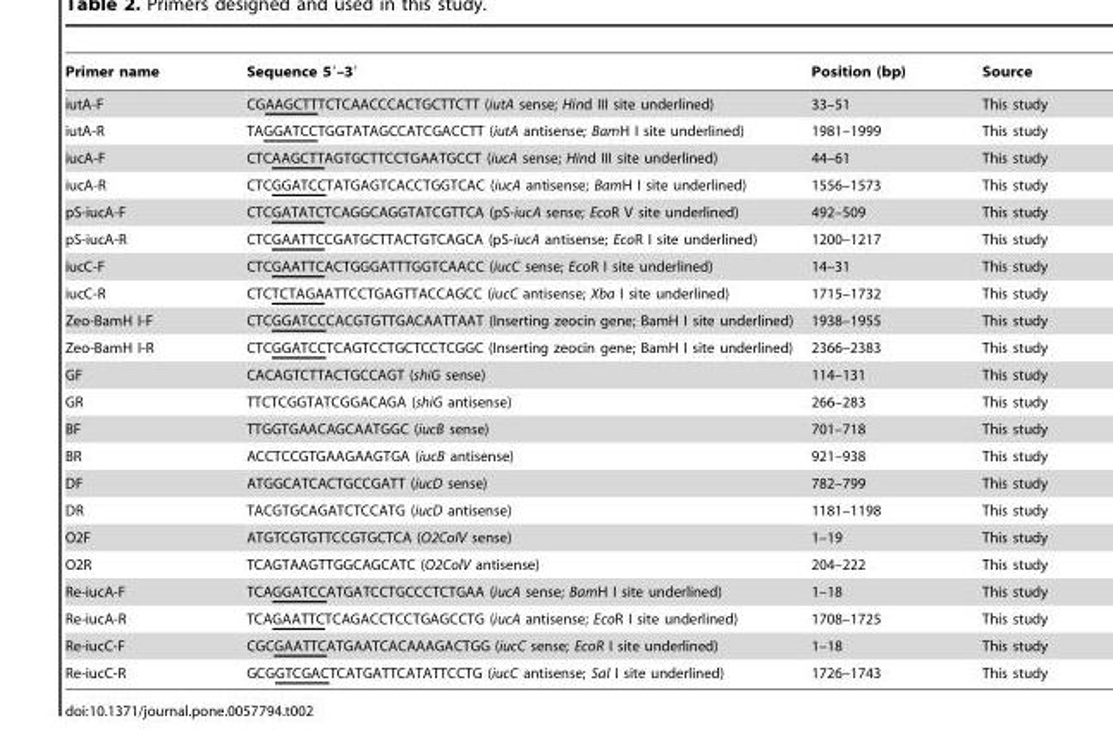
<table><thead><tr><td>Primer name</td><td>Sequence 5′–3′</td><td>Position (bp)</td><td>Source</td></tr></thead><tbody><tr><td>iutA-F</td><td>CGAAGCTTTCTCAACCCACTGCTTCTT (iutA sense; Hind III site underlined)</td><td>33–51</td><td>This study</td></tr><tr><td>iutA-R</td><td>TAGGATCCTGGTATAGCCATCGACCTT (iutA antisense; BamH I site underlined)</td><td>1981–1999</td><td>This study</td></tr><tr><td>iucA-F</td><td>CTCAAGCTTAGTGCTTCCTGAATGCCT (iucA sense; Hind III site underlined)</td><td>44–61</td><td>This study</td></tr><tr><td>iucA-R</td><td>CTCGGATCCTATGAGTCACCTGGTCAC (iucA antisense; BamH I site underlined)</td><td>1556–1573</td><td>This study</td></tr><tr><td>pS-iucA-F</td><td>CTCGATATCTCAGGCAGGTATCGTTCA (pS-iucA sense; EcoR V site underlined)</td><td>492–509</td><td>This study</td></tr><tr><td>pS-iucA-R</td><td>CTCGAATTCCGATGCTTACTGTCAGCA (pS-iucA antisense; EcoR I site underlined)</td><td>1200–1217</td><td>This study</td></tr><tr><td>iucC-F</td><td>CTCGAATTCACTGGGATTTGGTCAACC (iucC sense; EcoR I site underlined)</td><td>14–31</td><td>This study</td></tr><tr><td>iucC-R</td><td>CTCTCTAGAATTCCTGAGTTACCAGCC (iucC antisense; Xba I site underlined)</td><td>1715–1732</td><td>This study</td></tr><tr><td>Zeo-BamH I-F</td><td>CTCGGATCCCACGTGTTGACAATTAAT (Inserting zeocin gene; BamH I site underlined)</td><td>1938–1955</td><td>This study</td></tr><tr><td>Zeo-BamH I-R</td><td>CTCGGATCCTCAGTCCTGCTCCTCGGC (Inserting zeocin gene; BamH I site underlined)</td><td>2366–2383</td><td>This study</td></tr><tr><td>GF</td><td>CACAGTCTTACTGCCAGT (shiG sense)</td><td>114–131</td><td>This study</td></tr><tr><td>GR</td><td>TTCTCGGTATCGGACAGA (shiG antisense)</td><td>266–283</td><td>This study</td></tr><tr><td>BF</td><td>TTGGTGAACAGCAATGGC (iucB sense)</td><td>701–718</td><td>This study</td></tr><tr><td>BR</td><td>ACCTCCGTGAAGAAGTGA (iucB antisense)</td><td>921–938</td><td>This study</td></tr><tr><td>DF</td><td>ATGGCATCACTGCCGATT (iucD sense)</td><td>782–799</td><td>This study</td></tr><tr><td>DR</td><td>TACGTGCAGATCTCCATG (iucD antisense)</td><td>1181–1198</td><td>This study</td></tr><tr><td>O2F</td><td>ATGTCGTGTTCCGTGCTCA (O2ColV sense)</td><td>1–19</td><td>This study</td></tr><tr><td>O2R</td><td>TCAGTAAGTTGGCAGCATC (O2ColV antisense)</td><td>204–222</td><td>This study</td></tr><tr><td>Re-iucA-F</td><td>TCAGGATCCATGATCCTGCCCTCTGAA (iucA sense; BamH I site underlined)</td><td>1–18</td><td>This study</td></tr><tr><td>Re-iucA-R</td><td>TCAGAATTCTCAGACCTCCTGAGCCTG (iucA antisense; EcoR I site underlined)</td><td>1708–1725</td><td>This study</td></tr><tr><td>Re-iucC-F</td><td>CGCGAATTCATGAATCACAAAGACTGG (iucC sense; EcoR I site underlined)</td><td>1–18</td><td>This study</td></tr><tr><td>Re-iucC-R</td><td>GCGGTCGACTCATGATTCATATTCCTG (iucC antisense; Sal I site underlined)</td><td>1726–1743</td><td>This study</td></tr></tbody></table>